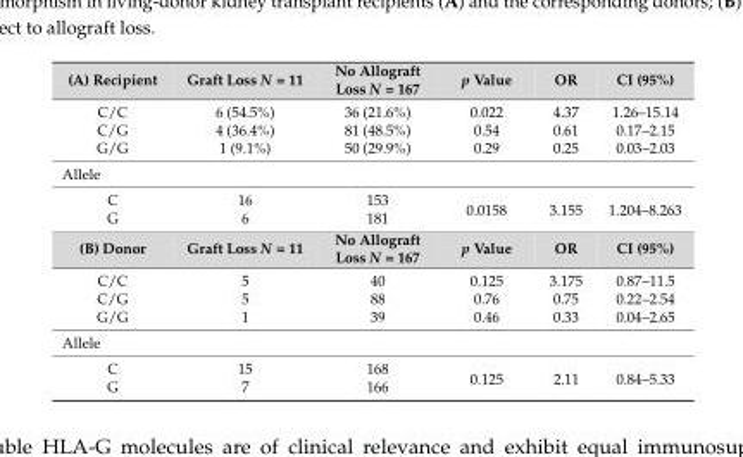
<table><tbody><tr><td>(A) Recipient</td><td>Graft Loss N = 11</td><td>No Allograft Loss N = 167</td><td>p Value</td><td>OR</td><td>CI (95%)</td></tr><tr><td>C/C</td><td>6 (54.5%)</td><td>36 (21.6%)</td><td>0.022</td><td>4.37</td><td>1.26–15.14</td></tr><tr><td>C/G</td><td>4 (36.4%)</td><td>81 (48.5%)</td><td>0.54</td><td>0.61</td><td>0.17–2.15</td></tr><tr><td>G/G</td><td>1 (9.1%)</td><td>50 (29.9%)</td><td>0.29</td><td>0.25</td><td>0.03–2.03</td></tr><tr><td colspan="6">Allele</td></tr><tr><td>C</td><td>16</td><td>153</td><td rowspan="2">0.0158</td><td rowspan="2">3.155</td><td rowspan="2">1.204–8.263</td></tr><tr><td>G</td><td>6</td><td>181</td></tr><tr><td>(B) Donor</td><td>Graft Loss N = 11</td><td>No Allograft Loss N = 167</td><td>p Value</td><td>OR</td><td>CI (95%)</td></tr><tr><td>C/C</td><td>5</td><td>40</td><td>0.125</td><td>3.175</td><td>0.87–11.5</td></tr><tr><td>C/G</td><td>5</td><td>88</td><td>0.76</td><td>0.75</td><td>0.22–2.54</td></tr><tr><td>G/G</td><td>1</td><td>39</td><td>0.46</td><td>0.33</td><td>0.04–2.65</td></tr><tr><td colspan="6">Allele</td></tr><tr><td>C</td><td>15</td><td>168</td><td rowspan="2">0.125</td><td rowspan="2">2.11</td><td rowspan="2">0.84–5.33</td></tr><tr><td>G</td><td>7</td><td>166</td></tr></tbody></table>